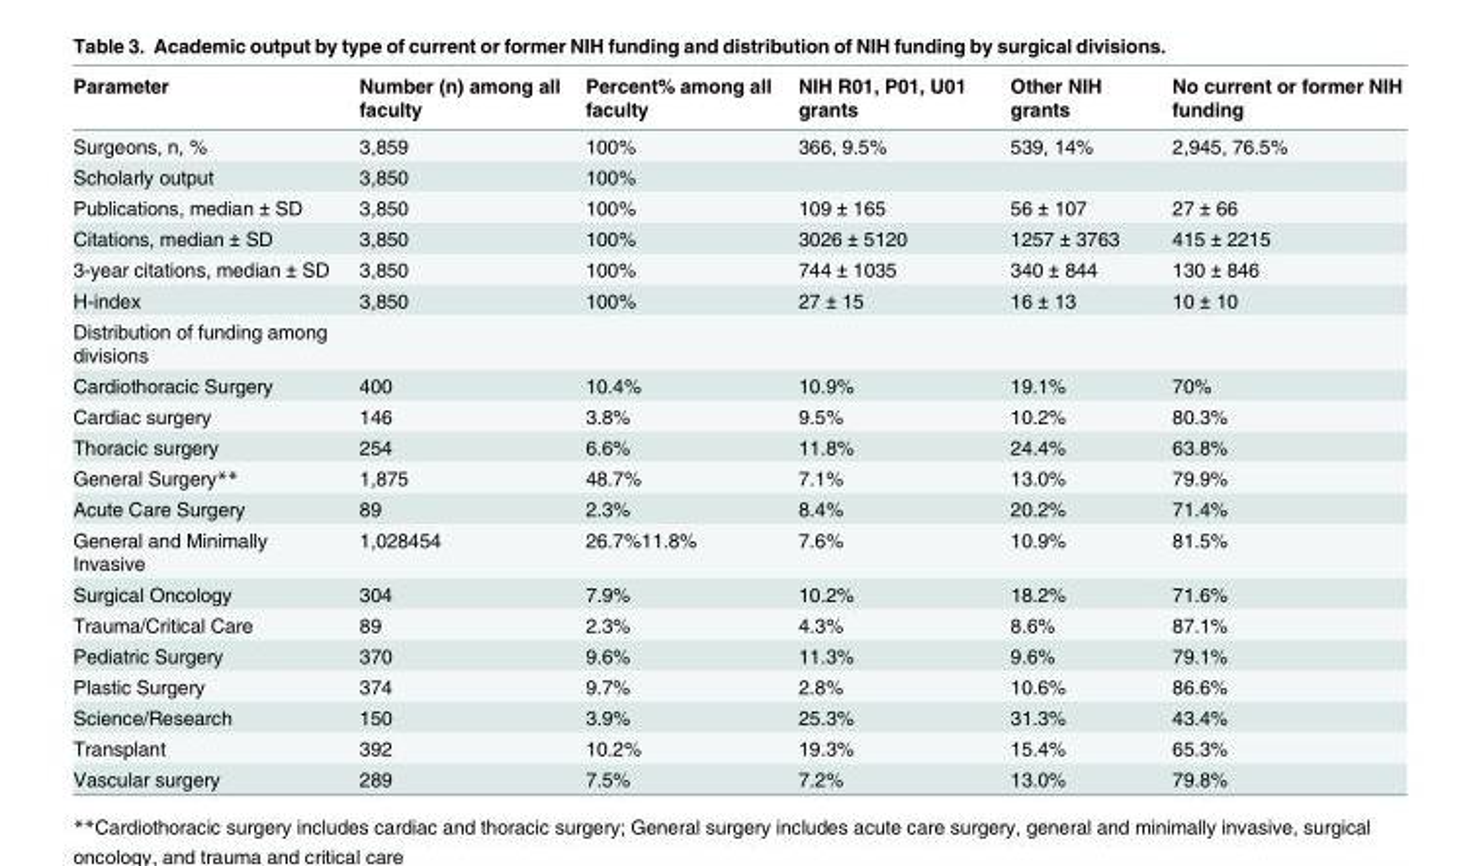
<table><thead><tr><td>Parameter</td><td>Number (n) among all faculty</td><td>Percent% among all faculty</td><td>NIH R01, P01, U01 grants</td><td>Other NIH grants</td><td>No current or former NIH funding</td></tr></thead><tbody><tr><td>Surgeons, n, %</td><td>3,859</td><td>100%</td><td>366, 9.5%</td><td>539, 14%</td><td>2,945, 76.5%</td></tr><tr><td>Scholarly output</td><td>3,850</td><td>100%</td><td></td><td></td><td></td></tr><tr><td>Publications, median ± SD</td><td>3,850</td><td>100%</td><td>109 ± 165</td><td>56 ± 107</td><td>27 ± 66</td></tr><tr><td>Citations, median ± SD</td><td>3,850</td><td>100%</td><td>3026 ± 5120</td><td>1257 ± 3763</td><td>415 ± 2215</td></tr><tr><td>3-year citations, median ± SD</td><td>3,850</td><td>100%</td><td>744 ± 1035</td><td>340 ± 844</td><td>130 ± 846</td></tr><tr><td>H-index</td><td>3,850</td><td>100%</td><td>27 ± 15</td><td>16 ± 13</td><td>10 ± 10</td></tr><tr><td colspan="6">Distribution of funding among divisions</td></tr><tr><td>Cardiothoracic Surgery</td><td>400</td><td>10.4%</td><td>10.9%</td><td>19.1%</td><td>70%</td></tr><tr><td>Cardiac surgery</td><td>146</td><td>3.8%</td><td>9.5%</td><td>10.2%</td><td>80.3%</td></tr><tr><td>Thoracic surgery</td><td>254</td><td>6.6%</td><td>11.8%</td><td>24.4%</td><td>63.8%</td></tr><tr><td>General Surgery**</td><td>1,875</td><td>48.7%</td><td>7.1%</td><td>13.0%</td><td>79.9%</td></tr><tr><td>Acute Care Surgery</td><td>89</td><td>2.3%</td><td>8.4%</td><td>20.2%</td><td>71.4%</td></tr><tr><td>General and Minimally Invasive</td><td>1,028454</td><td>26.7%11.8%</td><td>7.6%</td><td>10.9%</td><td>81.5%</td></tr><tr><td>Surgical Oncology</td><td>304</td><td>7.9%</td><td>10.2%</td><td>18.2%</td><td>71.6%</td></tr><tr><td>Trauma/Critical Care</td><td>89</td><td>2.3%</td><td>4.3%</td><td>8.6%</td><td>87.1%</td></tr><tr><td>Pediatric Surgery</td><td>370</td><td>9.6%</td><td>11.3%</td><td>9.6%</td><td>79.1%</td></tr><tr><td>Plastic Surgery</td><td>374</td><td>9.7%</td><td>2.8%</td><td>10.6%</td><td>86.6%</td></tr><tr><td>Science/Research</td><td>150</td><td>3.9%</td><td>25.3%</td><td>31.3%</td><td>43.4%</td></tr><tr><td>Transplant</td><td>392</td><td>10.2%</td><td>19.3%</td><td>15.4%</td><td>65.3%</td></tr><tr><td>Vascular surgery</td><td>289</td><td>7.5%</td><td>7.2%</td><td>13.0%</td><td>79.8%</td></tr></tbody></table>